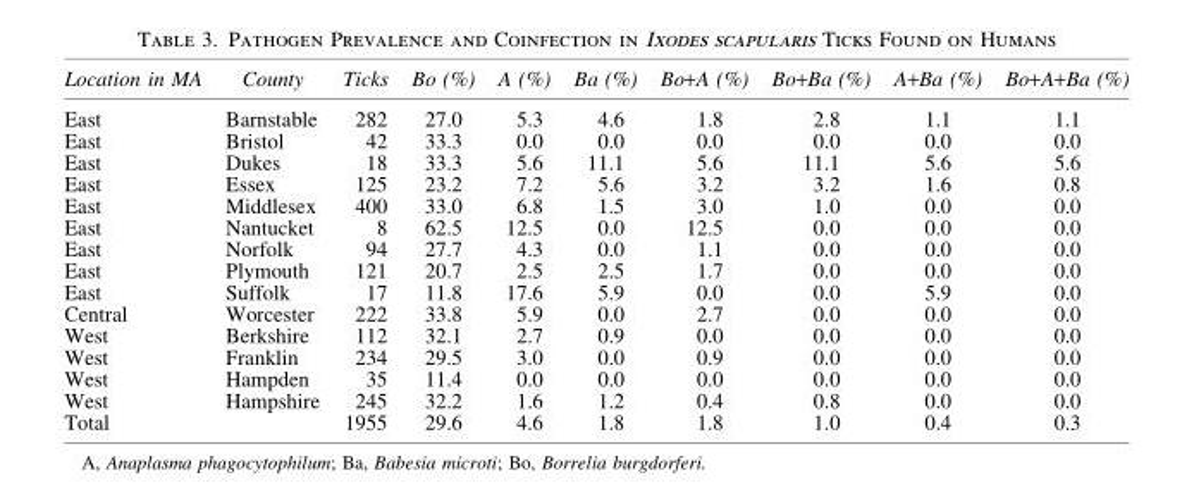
<table><thead><tr><td>Location in MA</td><td>County</td><td>Ticks</td><td>Bo (%)</td><td>A (%)</td><td>Ba (%)</td><td>Bo+A (%)</td><td>Bo+Ba (%)</td><td>A+Ba (%)</td><td>Bo+A+Ba (%)</td></tr></thead><tbody><tr><td>East</td><td>Barnstable</td><td>282</td><td>27.0</td><td>5.3</td><td>4.6</td><td>1.8</td><td>2.8</td><td>1.1</td><td>1.1</td></tr><tr><td>East</td><td>Bristol</td><td>42</td><td>33.3</td><td>0.0</td><td>0.0</td><td>0.0</td><td>0.0</td><td>0.0</td><td>0.0</td></tr><tr><td>East</td><td>Dukes</td><td>18</td><td>33.3</td><td>5.6</td><td>11.1</td><td>5.6</td><td>11.1</td><td>5.6</td><td>5.6</td></tr><tr><td>East</td><td>Essex</td><td>125</td><td>23.2</td><td>7.2</td><td>5.6</td><td>3.2</td><td>3.2</td><td>1.6</td><td>0.8</td></tr><tr><td>East</td><td>Middlesex</td><td>400</td><td>33.0</td><td>6.8</td><td>1.5</td><td>3.0</td><td>1.0</td><td>0.0</td><td>0.0</td></tr><tr><td>East</td><td>Nantucket</td><td>8</td><td>62.5</td><td>12.5</td><td>0.0</td><td>12.5</td><td>0.0</td><td>0.0</td><td>0.0</td></tr><tr><td>East</td><td>Norfolk</td><td>94</td><td>27.7</td><td>4.3</td><td>0.0</td><td>1.1</td><td>0.0</td><td>0.0</td><td>0.0</td></tr><tr><td>East</td><td>Plymouth</td><td>121</td><td>20.7</td><td>2.5</td><td>2.5</td><td>1.7</td><td>0.0</td><td>0.0</td><td>0.0</td></tr><tr><td>East</td><td>Suffolk</td><td>17</td><td>11.8</td><td>17.6</td><td>5.9</td><td>0.0</td><td>0.0</td><td>5.9</td><td>0.0</td></tr><tr><td>Central</td><td>Worcester</td><td>222</td><td>33.8</td><td>5.9</td><td>0.0</td><td>2.7</td><td>0.0</td><td>0.0</td><td>0.0</td></tr><tr><td>West</td><td>Berkshire</td><td>112</td><td>32.1</td><td>2.7</td><td>0.9</td><td>0.0</td><td>0.0</td><td>0.0</td><td>0.0</td></tr><tr><td>West</td><td>Franklin</td><td>234</td><td>29.5</td><td>3.0</td><td>0.0</td><td>0.9</td><td>0.0</td><td>0.0</td><td>0.0</td></tr><tr><td>West</td><td>Hampden</td><td>35</td><td>11.4</td><td>0.0</td><td>0.0</td><td>0.0</td><td>0.0</td><td>0.0</td><td>0.0</td></tr><tr><td>West</td><td>Hampshire</td><td>245</td><td>32.2</td><td>1.6</td><td>1.2</td><td>0.4</td><td>0.8</td><td>0.0</td><td>0.0</td></tr><tr><td>Total</td><td></td><td>1955</td><td>29.6</td><td>4.6</td><td>1.8</td><td>1.8</td><td>1.0</td><td>0.4</td><td>0.3</td></tr></tbody></table>